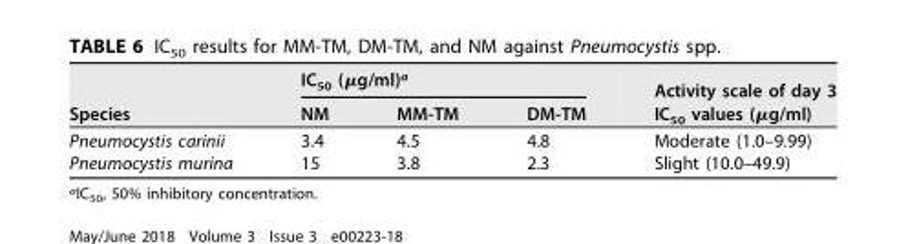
<table><thead><tr><td rowspan="2">Species</td><td colspan="3">IC<sub>50</sub> (µg/ml)<sup>a</sup></td><td rowspan="2">Activity scale of day 3 IC<sub>50</sub> values (µg/ml)</td></tr><tr><td>NM</td><td>MM-TM</td><td>DM-TM</td></tr></thead><tbody><tr><td>Pneumocystis carinii</td><td>3.4</td><td>4.5</td><td>4.8</td><td>Moderate (1.0–9.99)</td></tr><tr><td>Pneumocystis murina</td><td>15</td><td>3.8</td><td>2.3</td><td>Slight (10.0–49.9)</td></tr></tbody></table>